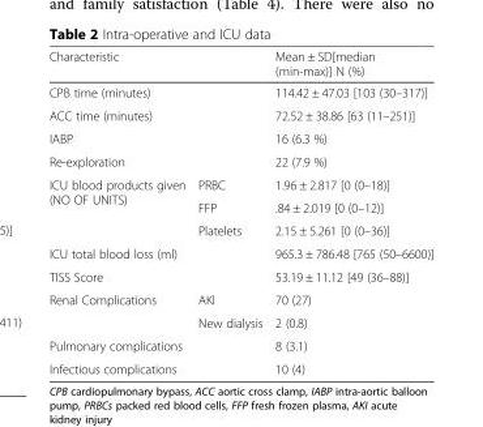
<table><thead><tr><td colspan="2">Characteristic</td><td>Mean ± SD[median (min-max)] N (%)</td></tr></thead><tbody><tr><td colspan="2">CPB time (minutes)</td><td>114.42 ± 47.03 [103 (30–317)]</td></tr><tr><td colspan="2">ACC time (minutes)</td><td>72.52 ± 38.86 [63 (11–251)]</td></tr><tr><td colspan="2">IABP</td><td>16 (6.3 %)</td></tr><tr><td colspan="2">Re-exploration</td><td>22 (7.9 %)</td></tr><tr><td rowspan="3">ICU blood products given (NO OF UNITS)</td><td>PRBC</td><td>1.96 ± 2.817 [0 (0–18)]</td></tr><tr><td>FFP</td><td>.84 ± 2.019 [0 (0–12)]</td></tr><tr><td>Platelets</td><td>2.15 ± 5.261 [0 (0–36)]</td></tr><tr><td colspan="2">ICU total blood loss (ml)</td><td>965.3 ± 786.48 [765 (50–6600)]</td></tr><tr><td colspan="2">TISS Score</td><td>53.19 ± 11.12 [49 (36–88)]</td></tr><tr><td rowspan="2">Renal Complications</td><td>AKI</td><td>70 (27)</td></tr><tr><td>New dialysis</td><td>2 (0.8)</td></tr><tr><td colspan="2">Pulmonary complications</td><td>8 (3.1)</td></tr><tr><td colspan="2">Infectious complications</td><td>10 (4)</td></tr></tbody></table>